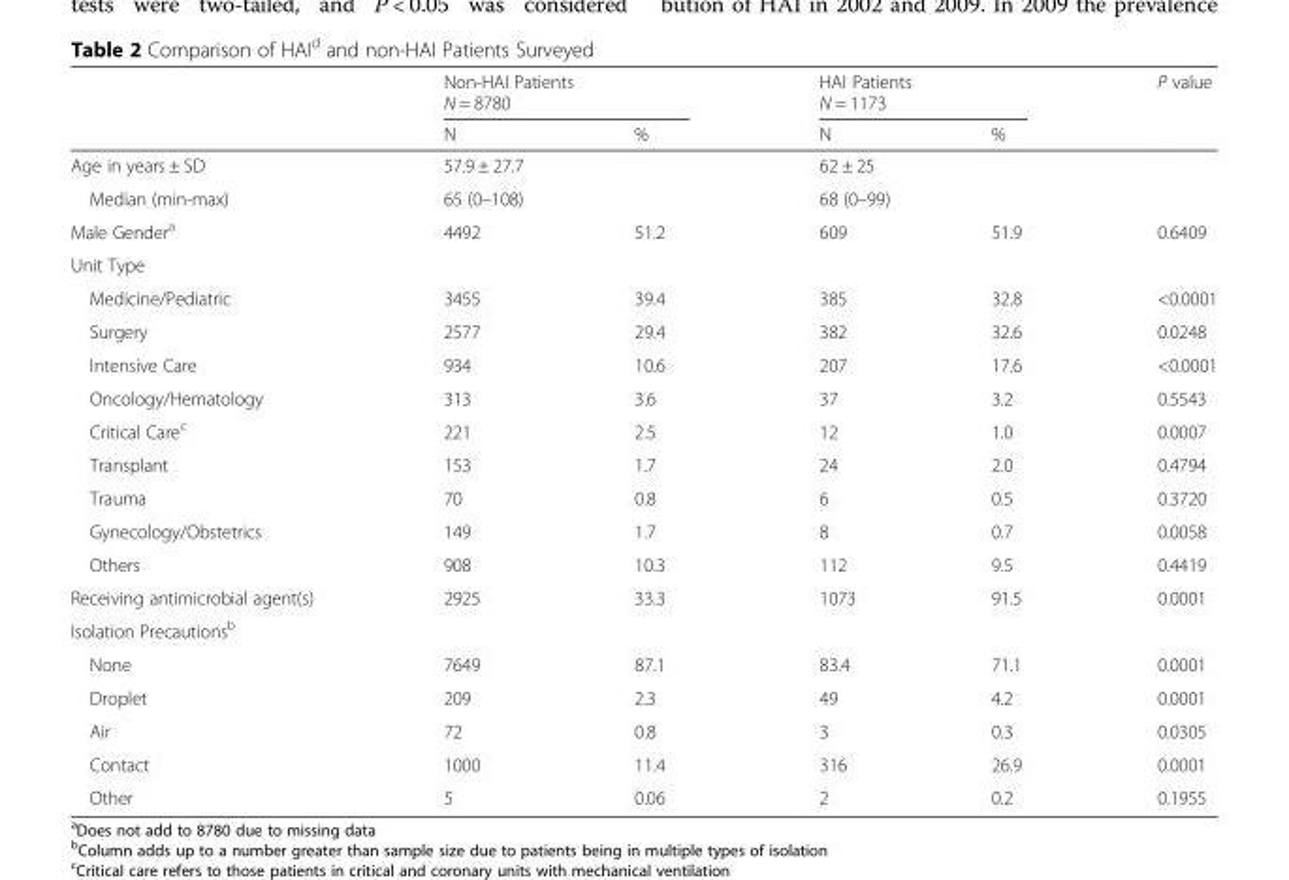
<table><thead><tr><td rowspan="2"></td><td colspan="2">Non-HAI Patients N = 8780</td><td colspan="2">HAI Patients N = 1173</td><td rowspan="2">P value</td></tr><tr><td>N</td><td>%</td><td>N</td><td>%</td></tr></thead><tbody><tr><td>Age in years ± SD</td><td colspan="2">57.9 ± 27.7</td><td colspan="2">62 ± 25</td><td rowspan="2"></td></tr><tr><td>Median (min-max)</td><td colspan="2">65 (0–108)</td><td colspan="2">68 (0–99)</td></tr><tr><td>Male Gender<sup>a</sup></td><td>4492</td><td>51.2</td><td>609</td><td>51.9</td><td>0.6409</td></tr><tr><td colspan="6">Unit Type</td></tr><tr><td>Medicine/Pediatric</td><td>3455</td><td>39.4</td><td>385</td><td>32.8</td><td>&lt;0.0001</td></tr><tr><td>Surgery</td><td>2577</td><td>29.4</td><td>382</td><td>32.6</td><td>0.0248</td></tr><tr><td>Intensive Care</td><td>934</td><td>10.6</td><td>207</td><td>17.6</td><td>&lt;0.0001</td></tr><tr><td>Oncology/Hematology</td><td>313</td><td>3.6</td><td>37</td><td>3.2</td><td>0.5543</td></tr><tr><td>Critical Care<sup>c</sup></td><td>221</td><td>2.5</td><td>12</td><td>1.0</td><td>0.0007</td></tr><tr><td>Transplant</td><td>153</td><td>1.7</td><td>24</td><td>2.0</td><td>0.4794</td></tr><tr><td>Trauma</td><td>70</td><td>0.8</td><td>6</td><td>0.5</td><td>0.3720</td></tr><tr><td>Gynecology/Obstetrics</td><td>149</td><td>1.7</td><td>8</td><td>0.7</td><td>0.0058</td></tr><tr><td>Others</td><td>908</td><td>10.3</td><td>112</td><td>9.5</td><td>0.4419</td></tr><tr><td>Receiving antimicrobial agent(s)</td><td>2925</td><td>33.3</td><td>1073</td><td>91.5</td><td>0.0001</td></tr><tr><td colspan="6">Isolation Precautions<sup>b</sup></td></tr><tr><td>None</td><td>7649</td><td>87.1</td><td>83.4</td><td>71.1</td><td>0.0001</td></tr><tr><td>Droplet</td><td>209</td><td>2.3</td><td>49</td><td>4.2</td><td>0.0001</td></tr><tr><td>Air</td><td>72</td><td>0.8</td><td>3</td><td>0.3</td><td>0.0305</td></tr><tr><td>Contact</td><td>1000</td><td>11.4</td><td>316</td><td>26.9</td><td>0.0001</td></tr><tr><td>Other</td><td>5</td><td>0.06</td><td>2</td><td>0.2</td><td>0.1955</td></tr></tbody></table>